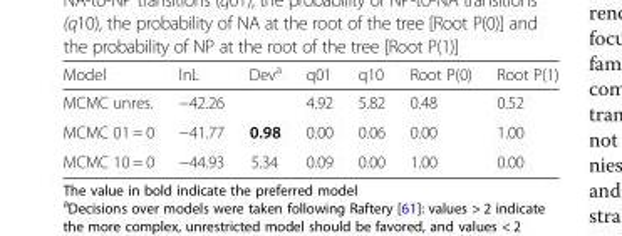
<table><thead><tr><td>Model</td><td>lnL</td><td>Dev<sup>a</sup></td><td>q01</td><td>q10</td><td>Root P(0)</td><td>Root P(1)</td></tr></thead><tbody><tr><td>MCMC unres.</td><td>−42.26</td><td></td><td>4.92</td><td>5.82</td><td>0.48</td><td>0.52</td></tr><tr><td>MCMC 01 = 0</td><td>−41.77</td><td>0.98</td><td>0.00</td><td>0.06</td><td>0.00</td><td>1.00</td></tr><tr><td>MCMC 10 = 0</td><td>−44.93</td><td>5.34</td><td>0.09</td><td>0.00</td><td>1.00</td><td>0.00</td></tr></tbody></table>